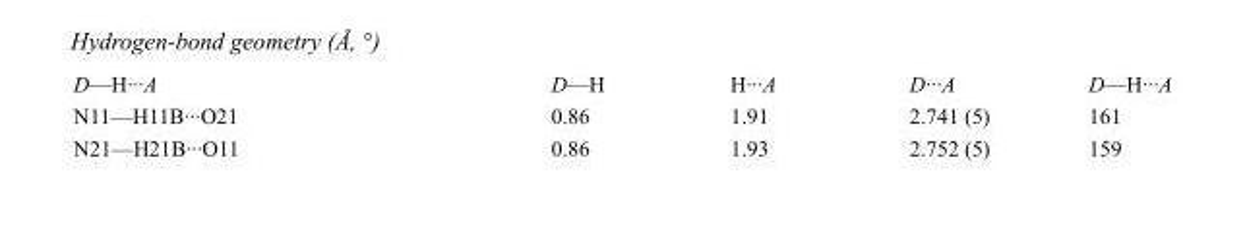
<table><tbody><tr><td>D—H···A</td><td>D—H</td><td>H···A</td><td>D···A</td><td>D—H···A</td></tr><tr><td>N11—H11B···O21</td><td>0.86</td><td>1.91</td><td>2.741 (5)</td><td>161</td></tr><tr><td>N21—H21B···O11</td><td>0.86</td><td>1.93</td><td>2.752 (5)</td><td>159</td></tr></tbody></table>